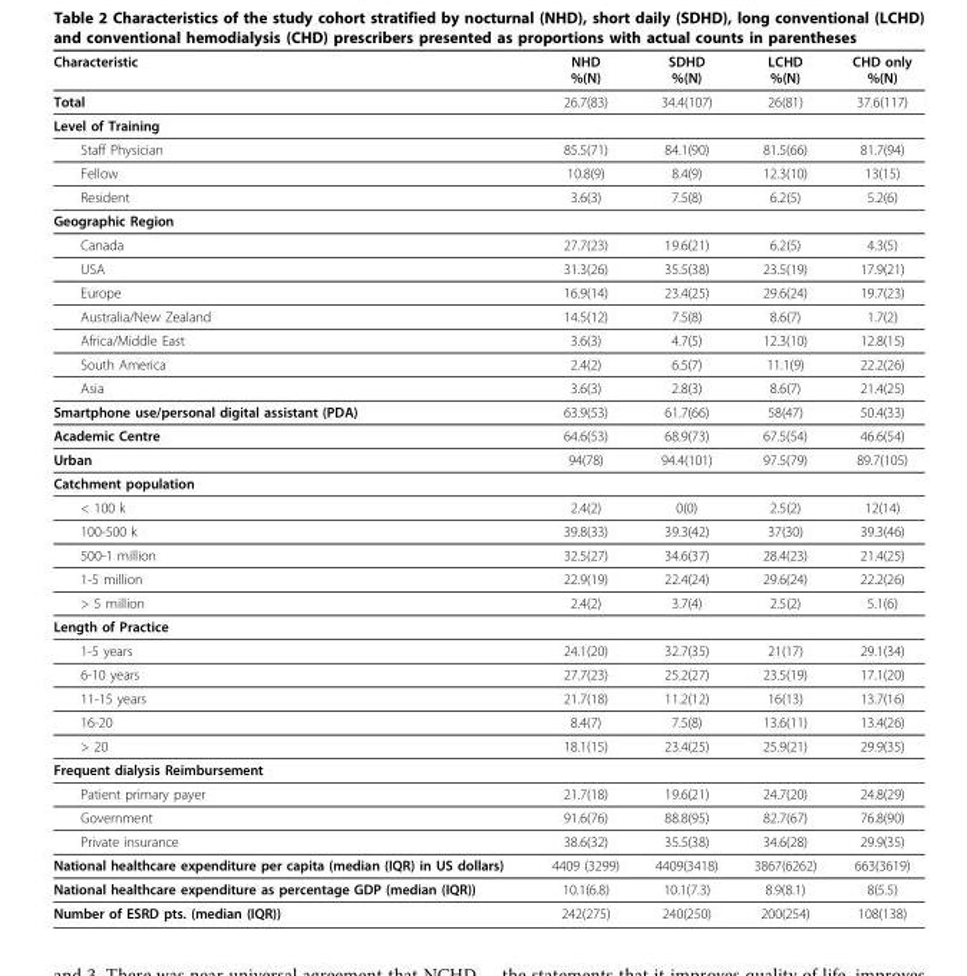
<table><thead><tr><td>Characteristic</td><td>NHD %(N)</td><td>SDHD %(N)</td><td>LCHD %(N)</td><td>CHD only %(N)</td></tr></thead><tbody><tr><td>Total</td><td>26.7(83)</td><td>34.4(107)</td><td>26(81)</td><td>37.6(117)</td></tr><tr><td colspan="5">Level of Training</td></tr><tr><td>Staff Physician</td><td>85.5(71)</td><td>84.1(90)</td><td>81.5(66)</td><td>81.7(94)</td></tr><tr><td>Fellow</td><td>10.8(9)</td><td>8.4(9)</td><td>12.3(10)</td><td>13(15)</td></tr><tr><td>Resident</td><td>3.6(3)</td><td>7.5(8)</td><td>6.2(5)</td><td>5.2(6)</td></tr><tr><td colspan="5">Geographic Region</td></tr><tr><td>Canada</td><td>27.7(23)</td><td>19.6(21)</td><td>6.2(5)</td><td>4.3(5)</td></tr><tr><td>USA</td><td>31.3(26)</td><td>35.5(38)</td><td>23.5(19)</td><td>17.9(21)</td></tr><tr><td>Europe</td><td>16.9(14)</td><td>23.4(25)</td><td>29.6(24)</td><td>19.7(23)</td></tr><tr><td>Australia/New Zealand</td><td>14.5(12)</td><td>7.5(8)</td><td>8.6(7)</td><td>1.7(2)</td></tr><tr><td>Africa/Middle East</td><td>3.6(3)</td><td>4.7(5)</td><td>12.3(10)</td><td>12.8(15)</td></tr><tr><td>South America</td><td>2.4(2)</td><td>6.5(7)</td><td>11.1(9)</td><td>22.2(26)</td></tr><tr><td>Asia</td><td>3.6(3)</td><td>2.8(3)</td><td>8.6(7)</td><td>21.4(25)</td></tr><tr><td>Smartphone use/personal digital assistant (PDA)</td><td>63.9(53)</td><td>61.7(66)</td><td>58(47)</td><td>50.4(33)</td></tr><tr><td>Academic Centre</td><td>64.6(53)</td><td>68.9(73)</td><td>67.5(54)</td><td>46.6(54)</td></tr><tr><td>Urban</td><td>94(78)</td><td>94.4(101)</td><td>97.5(79)</td><td>89.7(105)</td></tr><tr><td colspan="5">Catchment population</td></tr><tr><td>&lt; 100 k</td><td>2.4(2)</td><td>0(0)</td><td>2.5(2)</td><td>12(14)</td></tr><tr><td>100-500 k</td><td>39.8(33)</td><td>39.3(42)</td><td>37(30)</td><td>39.3(46)</td></tr><tr><td>500-1 million</td><td>32.5(27)</td><td>34.6(37)</td><td>28.4(23)</td><td>21.4(25)</td></tr><tr><td>1-5 million</td><td>22.9(19)</td><td>22.4(24)</td><td>29.6(24)</td><td>22.2(26)</td></tr><tr><td>&gt; 5 million</td><td>2.4(2)</td><td>3.7(4)</td><td>2.5(2)</td><td>5.1(6)</td></tr><tr><td colspan="5">Length of Practice</td></tr><tr><td>1-5 years</td><td>24.1(20)</td><td>32.7(35)</td><td>21(17)</td><td>29.1(34)</td></tr><tr><td>6-10 years</td><td>27.7(23)</td><td>25.2(27)</td><td>23.5(19)</td><td>17.1(20)</td></tr><tr><td>11-15 years</td><td>21.7(18)</td><td>11.2(12)</td><td>16(13)</td><td>13.7(16)</td></tr><tr><td>16-20</td><td>8.4(7)</td><td>7.5(8)</td><td>13.6(11)</td><td>13.4(26)</td></tr><tr><td>&gt; 20</td><td>18.1(15)</td><td>23.4(25)</td><td>25.9(21)</td><td>29.9(35)</td></tr><tr><td colspan="5">Frequent dialysis Reimbursement</td></tr><tr><td>Patient primary payer</td><td>21.7(18)</td><td>19.6(21)</td><td>24.7(20)</td><td>24.8(29)</td></tr><tr><td>Government</td><td>91.6(76)</td><td>88.8(95)</td><td>82.7(67)</td><td>76.8(90)</td></tr><tr><td>Private insurance</td><td>38.6(32)</td><td>35.5(38)</td><td>34.6(28)</td><td>29.9(35)</td></tr><tr><td>National healthcare expenditure per capita (median (IQR) in US dollars)</td><td>4409 (3299)</td><td>4409(3418)</td><td>3867(6262)</td><td>663(3619)</td></tr><tr><td>National healthcare expenditure as percentage GDP (median (IQR))</td><td>10.1(6.8)</td><td>10.1(7.3)</td><td>8.9(8.1)</td><td>8(5.5)</td></tr><tr><td>Number of ESRD pts. (median (IQR))</td><td>242(275)</td><td>240(250)</td><td>200(254)</td><td>108(138)</td></tr></tbody></table>